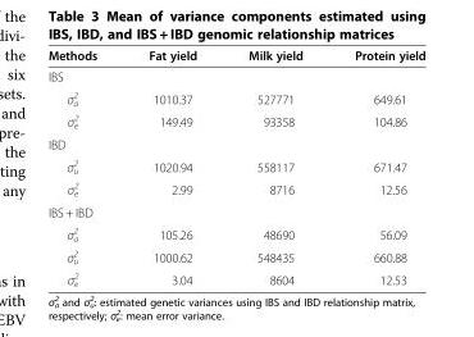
<table><thead><tr><td>Methods</td><td>Fat yield</td><td>Milk yield</td><td>Protein yield</td></tr></thead><tbody><tr><td colspan="4">IBS</td></tr><tr><td>σ<sub>a</sub> <sup>2</sup></td><td>1010.37</td><td>527771</td><td>649.61</td></tr><tr><td>σ<sub>e</sub> <sup>2</sup></td><td>149.49</td><td>93358</td><td>104.86</td></tr><tr><td colspan="4">IBD</td></tr><tr><td>σ<sub>u</sub> <sup>2</sup></td><td>1020.94</td><td>558117</td><td>671.47</td></tr><tr><td>σ<sub>e</sub> <sup>2</sup></td><td>2.99</td><td>8716</td><td>12.56</td></tr><tr><td colspan="4">IBS + IBD</td></tr><tr><td>σ<sub>a</sub> <sup>2</sup></td><td>105.26</td><td>48690</td><td>56.09</td></tr><tr><td>σ<sub>u</sub> <sup>2</sup></td><td>1000.62</td><td>548435</td><td>660.88</td></tr><tr><td>σ<sub>e</sub> <sup>2</sup></td><td>3.04</td><td>8604</td><td>12.53</td></tr></tbody></table>